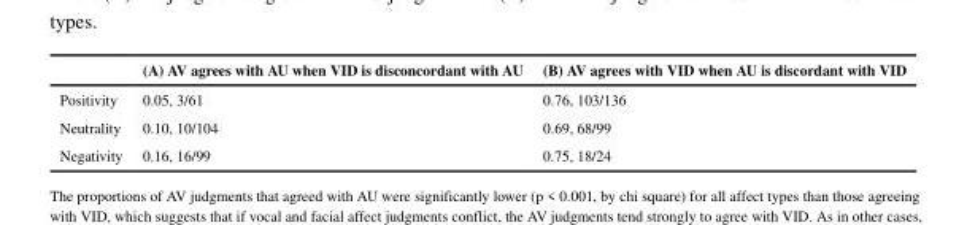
<table><thead><tr><td></td><td>(A) AV agrees with AU when VID is disconcordant with AU</td><td>(B) AV agrees with VID when AU is discordant with VID</td></tr></thead><tbody><tr><td>Positivity</td><td>0.05, 3/61</td><td>0.76, 103/136</td></tr><tr><td>Neutrality</td><td>0.10, 10/104</td><td>0.69, 68/99</td></tr><tr><td>Negativity</td><td>0.16, 16/99</td><td>0.75, 18/24</td></tr></tbody></table>